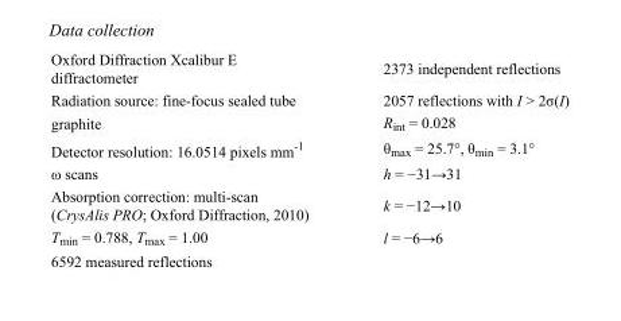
<table><tbody><tr><td>Oxford Diffraction Xcalibur E diffractometer</td><td>2373 independent reflections</td></tr><tr><td>Radiation source: fine-focus sealed tube</td><td>2057 reflections with I &gt; 2σ(I)</td></tr><tr><td>graphite</td><td>R<sub>int</sub> = 0.028</td></tr><tr><td>Detector resolution: 16.0514 pixels mm<sup>-1</sup></td><td>θ<sub>max</sub> = 25.7°, θ<sub>min</sub> = 3.1°</td></tr><tr><td>ω scans</td><td>h = −31→31</td></tr><tr><td>Absorption correction: multi-scan (CrysAlis PRO; Oxford Diffraction, 2010)</td><td>k = −12→10</td></tr><tr><td>T<sub>min</sub> = 0.788, T<sub>max</sub> = 1.00</td><td>l = −6→6</td></tr><tr><td>6592 measured reflections</td><td></td></tr></tbody></table>